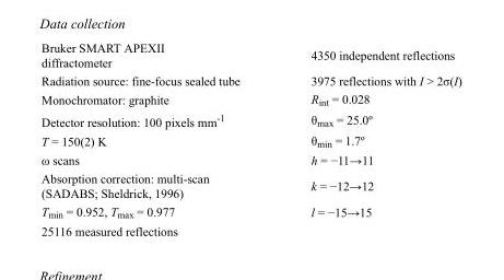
<table><tbody><tr><td>Bruker SMART APEXII diffractometer</td><td>4350 independent reflections</td></tr><tr><td>Radiation source: fine-focus sealed tube</td><td>3975 reflections with I &gt; 2σ(I)</td></tr><tr><td>Monochromator: graphite</td><td>R<sub>int</sub> = 0.028</td></tr><tr><td>Detector resolution: 100 pixels mm<sup>-1</sup></td><td>θ<sub>max</sub> = 25.0º</td></tr><tr><td>T = 150(2) K</td><td>θ<sub>min</sub> = 1.7º</td></tr><tr><td>ω scans</td><td>h = −11→11</td></tr><tr><td>Absorption correction: multi-scan (SADABS; Sheldrick, 1996)</td><td>k = −12→12</td></tr><tr><td>T<sub>min</sub> = 0.952, T<sub>max</sub> = 0.977</td><td>l = −15→15</td></tr><tr><td>25116 measured reflections</td><td></td></tr></tbody></table>